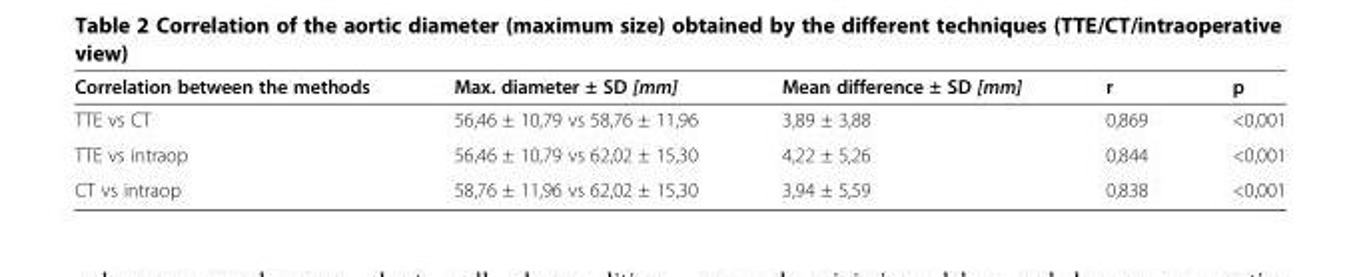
<table><thead><tr><td>Correlation between the methods</td><td>Max. diameter ± SD [mm]</td><td>Mean difference ± SD [mm]</td><td>r</td><td>p</td></tr></thead><tbody><tr><td>TTE vs CT</td><td>56,46 ± 10,79 vs 58,76 ± 11,96</td><td>3,89 ± 3,88</td><td>0,869</td><td>&lt;0,001</td></tr><tr><td>TTE vs intraop</td><td>56,46 ± 10,79 vs 62,02 ± 15,30</td><td>4,22 ± 5,26</td><td>0,844</td><td>&lt;0,001</td></tr><tr><td>CT vs intraop</td><td>58,76 ± 11,96 vs 62,02 ± 15,30</td><td>3,94 ± 5,59</td><td>0,838</td><td>&lt;0,001</td></tr></tbody></table>